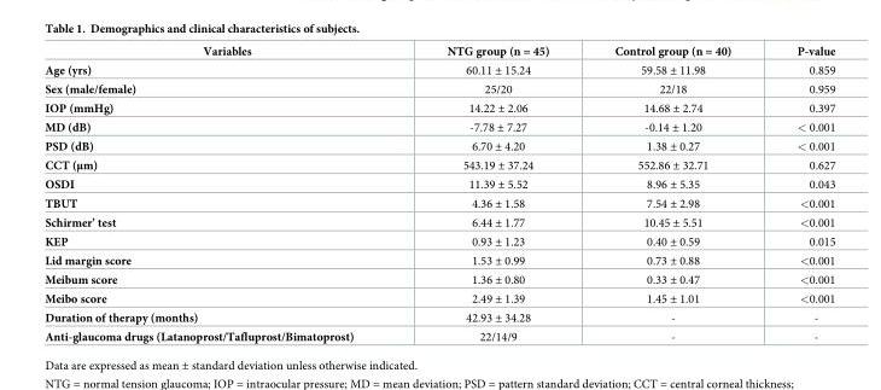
<table><thead><tr><td>Variables</td><td>NTG group (n = 45)</td><td>Control group (n = 40)</td><td>P-value</td></tr></thead><tbody><tr><td>Age (yrs)</td><td>60.11 ± 15.24</td><td>59.58 ± 11.98</td><td>0.859</td></tr><tr><td>Sex (male/female)</td><td>25/20</td><td>22/18</td><td>0.959</td></tr><tr><td>IOP (mmHg)</td><td>14.22 ± 2.06</td><td>14.68 ± 2.74</td><td>0.397</td></tr><tr><td>MD (dB)</td><td>-7.78 ± 7.27</td><td>-0.14 ± 1.20</td><td>&lt; 0.001</td></tr><tr><td>PSD (dB)</td><td>6.70 ± 4.20</td><td>1.38 ± 0.27</td><td>&lt; 0.001</td></tr><tr><td>CCT (μm)</td><td>543.19 ± 37.24</td><td>552.86 ± 32.71</td><td>0.627</td></tr><tr><td>OSDI</td><td>11.39 ± 5.52</td><td>8.96 ± 5.35</td><td>0.043</td></tr><tr><td>TBUT</td><td>4.36 ± 1.58</td><td>7.54 ± 2.98</td><td>&lt;0.001</td></tr><tr><td>Schirmer’ test</td><td>6.44 ± 1.77</td><td>10.45 ± 5.51</td><td>&lt;0.001</td></tr><tr><td>KEP</td><td>0.93 ± 1.23</td><td>0.40 ± 0.59</td><td>0.015</td></tr><tr><td>Lid margin score</td><td>1.53 ± 0.99</td><td>0.73 ± 0.88</td><td>&lt;0.001</td></tr><tr><td>Meibum score</td><td>1.36 ± 0.80</td><td>0.33 ± 0.47</td><td>&lt;0.001</td></tr><tr><td>Meibo score</td><td>2.49 ± 1.39</td><td>1.45 ± 1.01</td><td>&lt;0.001</td></tr><tr><td>Duration of therapy (months)</td><td>42.93 ± 34.28</td><td>-</td><td>-</td></tr><tr><td>Anti-glaucoma drugs (Latanoprost/Tafluprost/Bimatoprost)</td><td>22/14/9</td><td>-</td><td>-</td></tr></tbody></table>